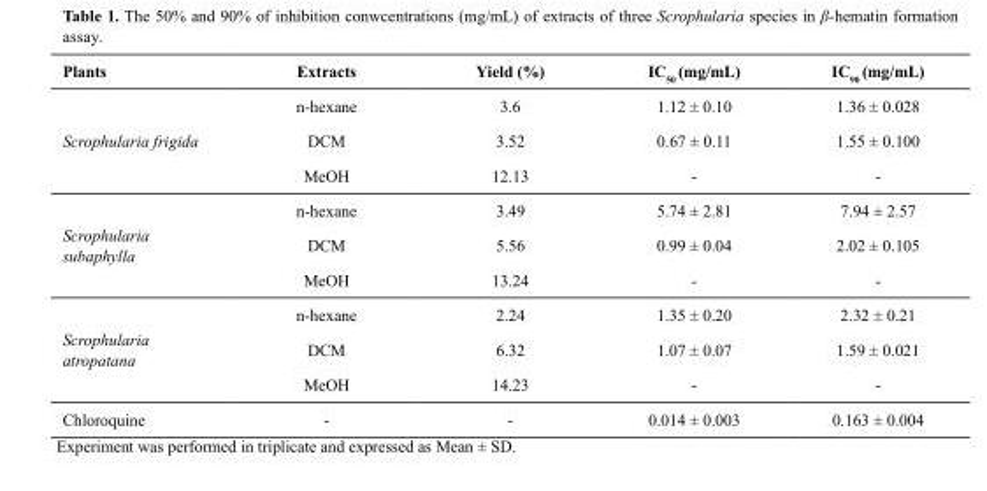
<table><thead><tr><td>Plants</td><td>Extracts</td><td>Yield (%)</td><td>IC<sub>50</sub> (mg/mL)</td><td>IC<sub>90</sub> (mg/mL)</td></tr></thead><tbody><tr><td rowspan="3">Scrophularia frigida</td><td>n-hexane</td><td>3.6</td><td>1.12 ± 0.10</td><td>1.36 ± 0.028</td></tr><tr><td>DCM</td><td>3.52</td><td>0.67 ± 0.11</td><td>1.55 ± 0.100</td></tr><tr><td>MeOH</td><td>12.13</td><td>-</td><td>-</td></tr><tr><td rowspan="3">Scrophularia subaphylla</td><td>n-hexane</td><td>3.49</td><td>5.74 ± 2.81</td><td>7.94 ± 2.57</td></tr><tr><td>DCM</td><td>5.56</td><td>0.99 ± 0.04</td><td>2.02 ± 0.105</td></tr><tr><td>MeOH</td><td>13.24</td><td>-</td><td>-</td></tr><tr><td rowspan="3">Scrophularia atropatana</td><td>n-hexane</td><td>2.24</td><td>1.35 ± 0.20</td><td>2.32 ± 0.21</td></tr><tr><td>DCM</td><td>6.32</td><td>1.07 ± 0.07</td><td>1.59 ± 0.021</td></tr><tr><td>MeOH</td><td>14.23</td><td>-</td><td>-</td></tr><tr><td>Chloroquine</td><td>-</td><td>-</td><td>0.014 ± 0.003</td><td>0.163 ± 0.004</td></tr></tbody></table>